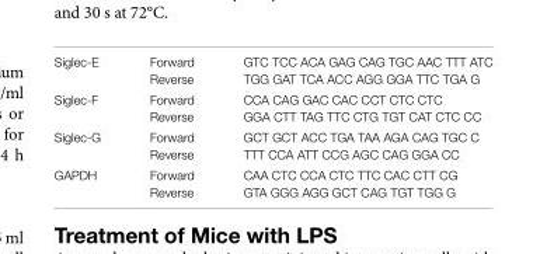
<table><tbody><tr><td rowspan="2">Siglec-E</td><td>Forward</td><td>GTC TCC ACA GAG CAG TGC AAC TTT ATC</td></tr><tr><td>Reverse</td><td>TGG GAT TCA ACC AGG GGA TTC TGA G</td></tr><tr><td rowspan="2">Siglec-F</td><td>Forward</td><td>CCA CAG GAC CAC CCT CTC CTC</td></tr><tr><td>Reverse</td><td>GGA CTT TAG TTC CTG TGT CAT CTC CC</td></tr><tr><td rowspan="2">Siglec-G</td><td>Forward</td><td>GCT GCT ACC TGA TAA AGA CAG TGC C</td></tr><tr><td>Reverse</td><td>TTT CCA ATT CCG AGC CAG GGA CC</td></tr><tr><td rowspan="2">GAPDH</td><td>Forward</td><td>CAA CTC CCA CTC TTC CAC CTT CG</td></tr><tr><td>Reverse</td><td>GTA GGG AGG GCT CAG TGT TGG G</td></tr></tbody></table>